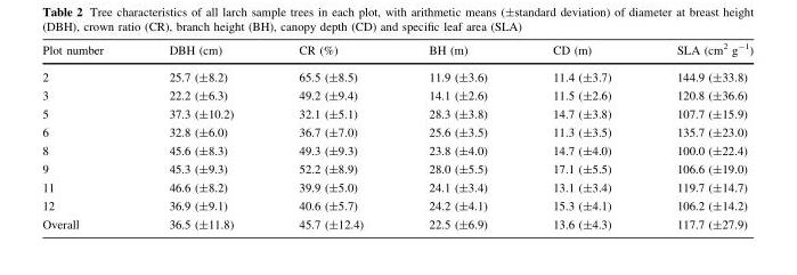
<table><thead><tr><td>Plot number</td><td>DBH (cm)</td><td>CR (%)</td><td>BH (m)</td><td>CD (m)</td><td>SLA (cm<sup>2</sup> g<sup>-1</sup>)</td></tr></thead><tbody><tr><td>2</td><td>25.7 (±8.2)</td><td>65.5 (±8.5)</td><td>11.9 (±3.6)</td><td>11.4 (±3.7)</td><td>144.9 (±33.8)</td></tr><tr><td>3</td><td>22.2 (±6.3)</td><td>49.2 (±9.4)</td><td>14.1 (±2.6)</td><td>11.5 (±2.6)</td><td>120.8 (±36.6)</td></tr><tr><td>5</td><td>37.3 (±10.2)</td><td>32.1 (±5.1)</td><td>28.3 (±3.8)</td><td>14.7 (±3.8)</td><td>107.7 (±15.9)</td></tr><tr><td>6</td><td>32.8 (±6.0)</td><td>36.7 (±7.0)</td><td>25.6 (±3.5)</td><td>11.3 (±3.5)</td><td>135.7 (±23.0)</td></tr><tr><td>8</td><td>45.6 (±8.3)</td><td>49.3 (±9.3)</td><td>23.8 (±4.0)</td><td>14.7 (±4.0)</td><td>100.0 (±22.4)</td></tr><tr><td>9</td><td>45.3 (±9.3)</td><td>52.2 (±8.9)</td><td>28.0 (±5.5)</td><td>17.1 (±5.5)</td><td>106.6 (±19.0)</td></tr><tr><td>11</td><td>46.6 (±8.2)</td><td>39.9 (±5.0)</td><td>24.1 (±3.4)</td><td>13.1 (±3.4)</td><td>119.7 (±14.7)</td></tr><tr><td>12</td><td>36.9 (±9.1)</td><td>40.6 (±5.7)</td><td>24.2 (±4.1)</td><td>15.3 (±4.1)</td><td>106.2 (±14.2)</td></tr><tr><td>Overall</td><td>36.5 (±11.8)</td><td>45.7 (±12.4)</td><td>22.5 (±6.9)</td><td>13.6 (±4.3)</td><td>117.7 (±27.9)</td></tr></tbody></table>